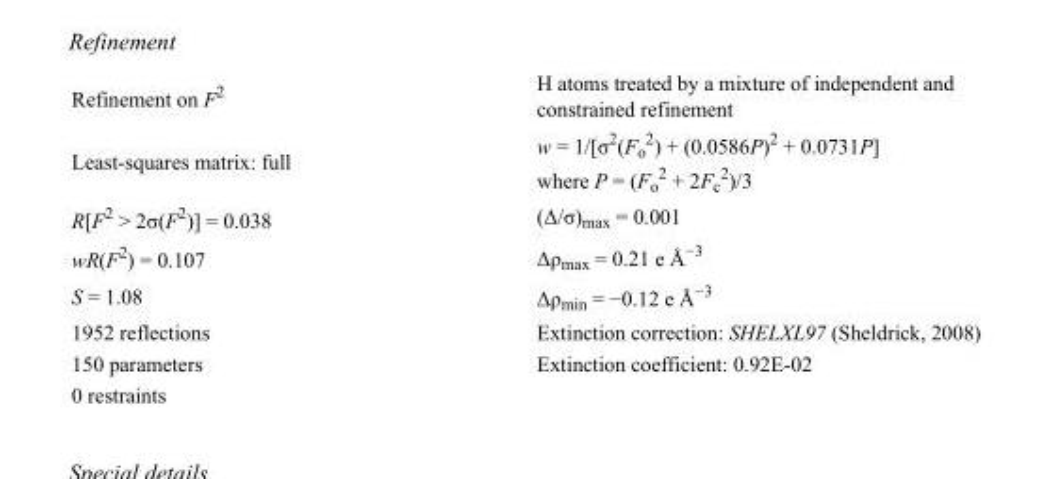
<table><tbody><tr><td>Refinement on F<sup>2</sup></td><td>H atoms treated by a mixture of independent and constrained refinement</td></tr><tr><td>Least-squares matrix: full</td><td>w = 1/[σ<sup>2</sup>(F<sub>o</sub> <sup>2</sup>) + (0.0586P)<sup>2</sup> + 0.0731P] where P = (F<sub>o</sub> <sup>2</sup> + 2F<sub>c</sub> <sup>2</sup>)/3</td></tr><tr><td>R[F<sup>2</sup> &gt; 2σ(F<sup>2</sup>)] = 0.038</td><td>(Δ/σ)<sub>max</sub> = 0.001</td></tr><tr><td>wR(F<sup>2</sup>) = 0.107</td><td>Δρ<sub>max</sub> = 0.21 e Å<sup>−3</sup></td></tr><tr><td>S = 1.08</td><td>Δρ<sub>min</sub> = −0.12 e Å<sup>−3</sup></td></tr><tr><td>1952 reflections</td><td>Extinction correction: SHELXL97 (Sheldrick, 2008)</td></tr><tr><td>150 parameters</td><td>Extinction coefficient: 0.92E-02</td></tr><tr><td>0 restraints</td><td></td></tr></tbody></table>